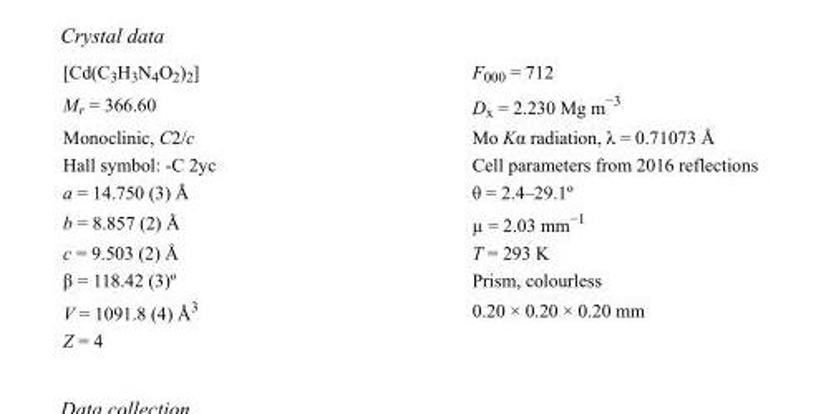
<table><tbody><tr><td>[Cd(C<sub>3</sub>H<sub>3</sub>N<sub>4</sub>O<sub>2</sub>)<sub>2</sub>]</td><td>F000 = 712</td></tr><tr><td>M<sub>r</sub> = 366.60</td><td>D<sub>x</sub> = 2.230 Mg m<sup>−3</sup></td></tr><tr><td>Monoclinic, C2/c</td><td>Mo Kα radiation, λ = 0.71073 Å</td></tr><tr><td>Hall symbol: -C 2yc</td><td>Cell parameters from 2016 reflections</td></tr><tr><td>a = 14.750 (3) Å</td><td>θ = 2.4–29.1º</td></tr><tr><td>b = 8.857 (2) Å</td><td>µ = 2.03 mm<sup>−1</sup></td></tr><tr><td>c = 9.503 (2) Å</td><td>T = 293 K</td></tr><tr><td>β = 118.42 (3)º</td><td>Prism, colourless</td></tr><tr><td>V = 1091.8 (4) Å<sup>3</sup></td><td>0.20 × 0.20 × 0.20 mm</td></tr><tr><td>Z = 4</td><td></td></tr></tbody></table>